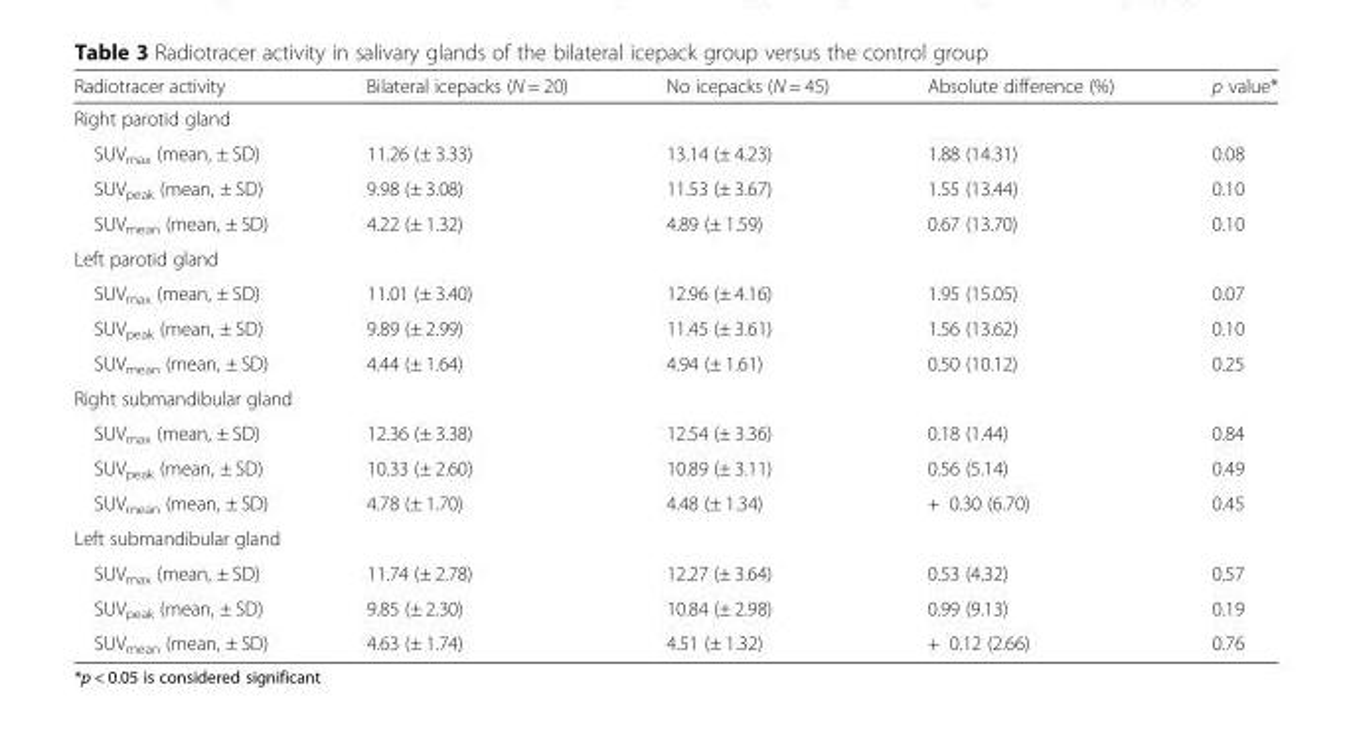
<table><thead><tr><td>Radiotracer activity</td><td>Bilateral icepacks (N = 20)</td><td>No icepacks (N = 45)</td><td>Absolute difference (%)</td><td>p value*</td></tr></thead><tbody><tr><td colspan="5">Right parotid gland</td></tr><tr><td>SUV<sub>max</sub> (mean, ± SD)</td><td>11.26 (± 3.33)</td><td>13.14 (± 4.23)</td><td>1.88 (14.31)</td><td>0.08</td></tr><tr><td>SUV<sub>peak</sub> (mean, ± SD)</td><td>9.98 (± 3.08)</td><td>11.53 (± 3.67)</td><td>1.55 (13.44)</td><td>0.10</td></tr><tr><td>SUV<sub>mean</sub> (mean, ± SD)</td><td>4.22 (± 1.32)</td><td>4.89 (± 1.59)</td><td>0.67 (13.70)</td><td>0.10</td></tr><tr><td colspan="5">Left parotid gland</td></tr><tr><td>SUV<sub>max</sub> (mean, ± SD)</td><td>11.01 (± 3.40)</td><td>12.96 (± 4.16)</td><td>1.95 (15.05)</td><td>0.07</td></tr><tr><td>SUV<sub>peak</sub> (mean, ± SD)</td><td>9.89 (± 2.99)</td><td>11.45 (± 3.61)</td><td>1.56 (13.62)</td><td>0.10</td></tr><tr><td>SUV<sub>mean</sub> (mean, ± SD)</td><td>4.44 (± 1.64)</td><td>4.94 (± 1.61)</td><td>0.50 (10.12)</td><td>0.25</td></tr><tr><td colspan="5">Right submandibular gland</td></tr><tr><td>SUV<sub>max</sub> (mean, ± SD)</td><td>12.36 (± 3.38)</td><td>12.54 (± 3.36)</td><td>0.18 (1.44)</td><td>0.84</td></tr><tr><td>SUV<sub>peak</sub> (mean, ± SD)</td><td>10.33 (± 2.60)</td><td>10.89 (± 3.11)</td><td>0.56 (5.14)</td><td>0.49</td></tr><tr><td>SUV<sub>mean</sub> (mean, ± SD)</td><td>4.78 (± 1.70)</td><td>4.48 (± 1.34)</td><td>+ 0.30 (6.70)</td><td>0.45</td></tr><tr><td colspan="5">Left submandibular gland</td></tr><tr><td>SUV<sub>max</sub> (mean, ± SD)</td><td>11.74 (± 2.78)</td><td>12.27 (± 3.64)</td><td>0.53 (4.32)</td><td>0.57</td></tr><tr><td>SUV<sub>peak</sub> (mean, ± SD)</td><td>9.85 (± 2.30)</td><td>10.84 (± 2.98)</td><td>0.99 (9.13)</td><td>0.19</td></tr><tr><td>SUV<sub>mean</sub> (mean, ± SD)</td><td>4.63 (± 1.74)</td><td>4.51 (± 1.32)</td><td>+ 0.12 (2.66)</td><td>0.76</td></tr></tbody></table>